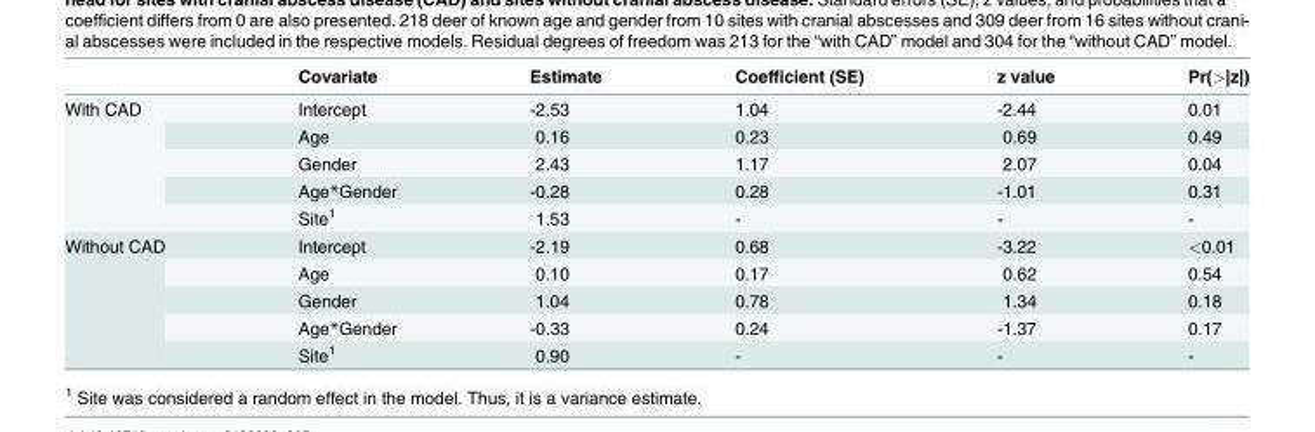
<table><thead><tr><td></td><td>Covariate</td><td>Estimate</td><td>Coefficient (SE)</td><td>z value</td><td>Pr(&gt;|z|)</td></tr></thead><tbody><tr><td rowspan="5">With CAD</td><td>Intercept</td><td>-2.53</td><td>1.04</td><td>-2.44</td><td>0.01</td></tr><tr><td>Age</td><td>0.16</td><td>0.23</td><td>0.69</td><td>0.49</td></tr><tr><td>Gender</td><td>2.43</td><td>1.17</td><td>2.07</td><td>0.04</td></tr><tr><td>Age*Gender</td><td>-0.28</td><td>0.28</td><td>-1.01</td><td>0.31</td></tr><tr><td>Site<sup>1</sup></td><td>1.53</td><td>-</td><td>-</td><td>-</td></tr><tr><td rowspan="5">Without CAD</td><td>Intercept</td><td>-2.19</td><td>0.68</td><td>-3.22</td><td>&lt;0.01</td></tr><tr><td>Age</td><td>0.10</td><td>0.17</td><td>0.62</td><td>0.54</td></tr><tr><td>Gender</td><td>1.04</td><td>0.78</td><td>1.34</td><td>0.18</td></tr><tr><td>Age*Gender</td><td>-0.33</td><td>0.24</td><td>-1.37</td><td>0.17</td></tr><tr><td>Site<sup>1</sup></td><td>0.90</td><td>-</td><td>-</td><td>-</td></tr></tbody></table>